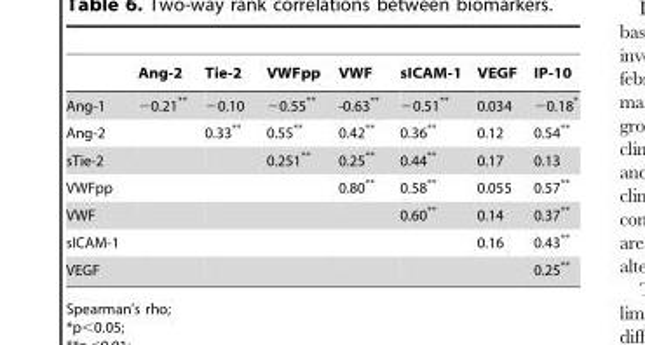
<table><thead><tr><td></td><td>Ang-2</td><td>Tie-2</td><td>VWFpp</td><td>VWF</td><td>sICAM-1</td><td>VEGF</td><td>IP-10</td></tr></thead><tbody><tr><td>Ang-1</td><td>−0.21**</td><td>−0.10</td><td>−0.55**</td><td>-0.63**</td><td>−0.51**</td><td>0.034</td><td>−0.18*</td></tr><tr><td>Ang-2</td><td></td><td>0.33**</td><td>0.55**</td><td>0.42**</td><td>0.36**</td><td>0.12</td><td>0.54**</td></tr><tr><td>sTie-2</td><td></td><td></td><td>0.251**</td><td>0.25**</td><td>0.44**</td><td>0.17</td><td>0.13</td></tr><tr><td>VWFpp</td><td></td><td></td><td></td><td>0.80**</td><td>0.58**</td><td>0.055</td><td>0.57**</td></tr><tr><td>VWF</td><td></td><td></td><td></td><td></td><td>0.60**</td><td>0.14</td><td>0.37**</td></tr><tr><td>sICAM-1</td><td></td><td></td><td></td><td></td><td></td><td>0.16</td><td>0.43**</td></tr><tr><td>VEGF</td><td></td><td></td><td></td><td></td><td></td><td></td><td>0.25**</td></tr></tbody></table>